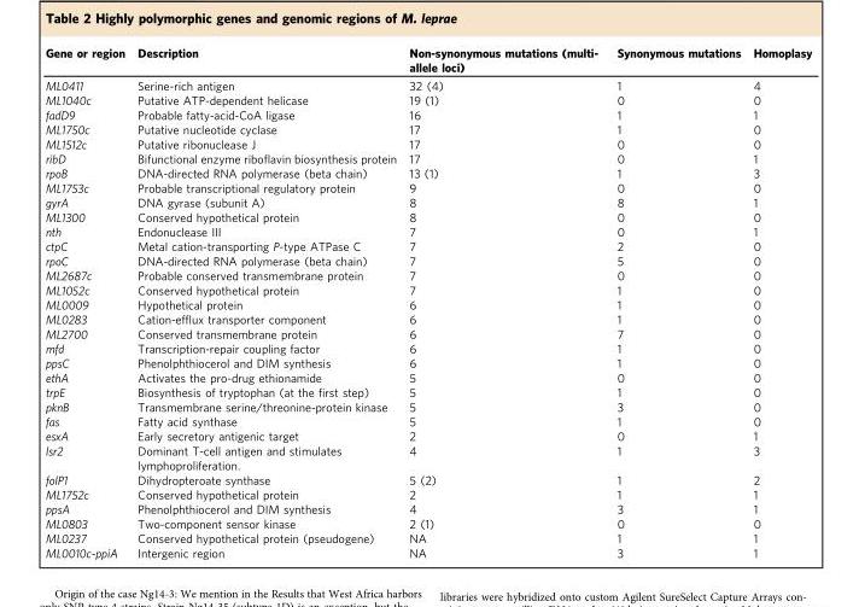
<table><thead><tr><td>Gene or region</td><td>Description</td><td>Non-synonymous mutations (multi- allele loci)</td><td>Synonymous mutations</td><td>Homoplasy</td></tr></thead><tbody><tr><td>ML0411</td><td>Serine-rich antigen</td><td>32 (4)</td><td>1</td><td>4</td></tr><tr><td>ML1040c</td><td>Putative ATP-dependent helicase</td><td>19 (1)</td><td>0</td><td>0</td></tr><tr><td>fadD9</td><td>Probable fatty-acid-CoA ligase</td><td>16</td><td>1</td><td>1</td></tr><tr><td>ML1750c</td><td>Putative nucleotide cyclase</td><td>17</td><td>1</td><td>0</td></tr><tr><td>ML1512c</td><td>Putative ribonuclease J</td><td>17</td><td>0</td><td>0</td></tr><tr><td>ribD</td><td>Bifunctional enzyme riboflavin biosynthesis protein</td><td>17</td><td>0</td><td>1</td></tr><tr><td>rpoB</td><td>DNA-directed RNA polymerase (beta chain)</td><td>13 (1)</td><td>1</td><td>3</td></tr><tr><td>ML1753c</td><td>Probable transcriptional regulatory protein</td><td>9</td><td>0</td><td>0</td></tr><tr><td>gyrA</td><td>DNA gyrase (subunit A)</td><td>8</td><td>8</td><td>1</td></tr><tr><td>ML1300</td><td>Conserved hypothetical protein</td><td>8</td><td>0</td><td>0</td></tr><tr><td>nth</td><td>Endonuclease III</td><td>7</td><td>0</td><td>1</td></tr><tr><td>ctpC</td><td>Metal cation-transporting P-type ATPase C</td><td>7</td><td>2</td><td>0</td></tr><tr><td>rpoC</td><td>DNA-directed RNA polymerase (beta chain)</td><td>7</td><td>5</td><td>0</td></tr><tr><td>ML2687c</td><td>Probable conserved transmembrane protein</td><td>7</td><td>0</td><td>0</td></tr><tr><td>ML1052c</td><td>Conserved hypothetical protein</td><td>7</td><td>1</td><td>0</td></tr><tr><td>ML0009</td><td>Hypothetical protein</td><td>6</td><td>1</td><td>0</td></tr><tr><td>ML0283</td><td>Cation-efflux transporter component</td><td>6</td><td>1</td><td>0</td></tr><tr><td>ML2700</td><td>Conserved transmembrane protein</td><td>6</td><td>7</td><td>0</td></tr><tr><td>mfd</td><td>Transcription-repair coupling factor</td><td>6</td><td>1</td><td>0</td></tr><tr><td>ppsC</td><td>Phenolphthiocerol and DIM synthesis</td><td>6</td><td>1</td><td>0</td></tr><tr><td>ethA</td><td>Activates the pro-drug ethionamide</td><td>5</td><td>0</td><td>0</td></tr><tr><td>trpE</td><td>Biosynthesis of tryptophan (at the first step)</td><td>5</td><td>1</td><td>0</td></tr><tr><td>pknB</td><td>Transmembrane serine/threonine-protein kinase</td><td>5</td><td>3</td><td>0</td></tr><tr><td>fas</td><td>Fatty acid synthase</td><td>5</td><td>1</td><td>0</td></tr><tr><td>esxA</td><td>Early secretory antigenic target</td><td>2</td><td>0</td><td>1</td></tr><tr><td>lsr2</td><td>Dominant T-cell antigen and stimulates lymphoproliferation.</td><td>4</td><td>1</td><td>3</td></tr><tr><td>folP1</td><td>Dihydropteroate synthase</td><td>5 (2)</td><td>1</td><td>2</td></tr><tr><td>ML1752c</td><td>Conserved hypothetical protein</td><td>2</td><td>1</td><td>1</td></tr><tr><td>ppsA</td><td>Phenolphthiocerol and DIM synthesis</td><td>4</td><td>3</td><td>1</td></tr><tr><td>ML0803</td><td>Two-component sensor kinase</td><td>2 (1)</td><td>0</td><td>0</td></tr><tr><td>ML0237</td><td>Conserved hypothetical protein (pseudogene)</td><td>NA</td><td>1</td><td>1</td></tr><tr><td>ML0010c-ppiA</td><td>Intergenic region</td><td>NA</td><td>3</td><td>1</td></tr></tbody></table>